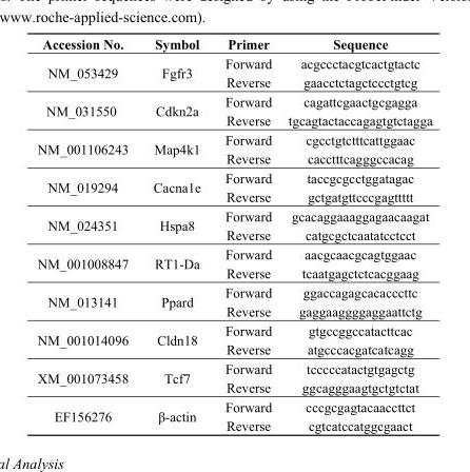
<table><thead><tr><td>Accession No.</td><td>Symbol</td><td>Primer</td><td>Sequence</td></tr></thead><tbody><tr><td rowspan="2">NM_053429</td><td rowspan="2">Fgfr3</td><td>Forward</td><td>acgccctacgtcactgtactc</td></tr><tr><td>Reverse</td><td>gaacctctagctccctgtcg</td></tr><tr><td rowspan="2">NM_031550</td><td rowspan="2">Cdkn2a</td><td>Forward</td><td>cagattcgaactgcgagga</td></tr><tr><td>Reverse</td><td>tgcagtactaccagagtgtctagga</td></tr><tr><td rowspan="2">NM_001106243</td><td rowspan="2">Map4k1</td><td>Forward</td><td>cgcctgtctttcattggaac</td></tr><tr><td>Reverse</td><td>cacctttcagggccacag</td></tr><tr><td rowspan="2">NM_019294</td><td rowspan="2">Cacna1e</td><td>Forward</td><td>taccgcgcctggatagac</td></tr><tr><td>Reverse</td><td>gctgatgttcccgagttttt</td></tr><tr><td rowspan="2">NM_024351</td><td rowspan="2">Hspa8</td><td>Forward</td><td>gcacaggaaaggagaacaagat</td></tr><tr><td>Reverse</td><td>catgcgctcaatatcctcct</td></tr><tr><td rowspan="2">NM_001008847</td><td rowspan="2">RT1-Da</td><td>Forward</td><td>aacgcaacgcagtggaac</td></tr><tr><td>Reverse</td><td>tcaatgagctctcacggaag</td></tr><tr><td rowspan="2">NM_013141</td><td rowspan="2">Ppard</td><td>Forward</td><td>ggaccagagcacacccttc</td></tr><tr><td>Reverse</td><td>gaggaaggggaggaattctg</td></tr><tr><td rowspan="2">NM_001014096</td><td rowspan="2">Cldn18</td><td>Forward</td><td>gtgccggccatacttcac</td></tr><tr><td>Reverse</td><td>atgcccacgatcatcagg</td></tr><tr><td rowspan="2">XM_001073458</td><td rowspan="2">Tcf7</td><td>Forward</td><td>tcccccatactgtgagctg</td></tr><tr><td>Reverse</td><td>ggcagggaagtgctgtctat</td></tr><tr><td rowspan="2">EF156276</td><td rowspan="2">β-actin</td><td>Forward</td><td>cccgcgagtacaaccttct</td></tr><tr><td>Reverse</td><td>cgtcatccatggcgaact</td></tr></tbody></table>